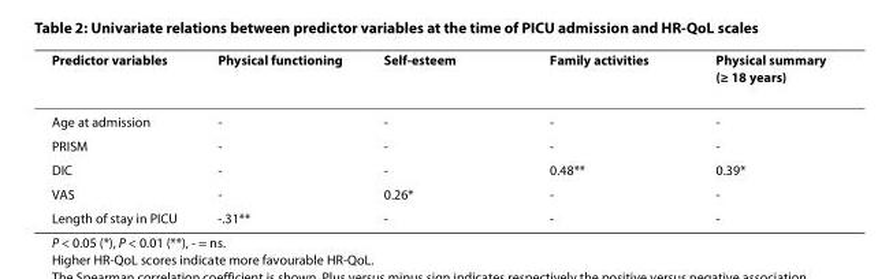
<table><thead><tr><td>Predictor variables</td><td>Physical functioning</td><td>Self-esteem</td><td>Family activities</td><td>Physical summary (≥ 18 years)</td></tr></thead><tbody><tr><td>Age at admission</td><td>-</td><td>-</td><td>-</td><td>-</td></tr><tr><td>PRISM</td><td>-</td><td>-</td><td>-</td><td>-</td></tr><tr><td>DIC</td><td>-</td><td>-</td><td>0.48**</td><td>0.39*</td></tr><tr><td>VAS</td><td>-</td><td>0.26*</td><td>-</td><td>-</td></tr><tr><td>Length of stay in PICU</td><td>-.31**</td><td>-</td><td>-</td><td>-</td></tr></tbody></table>